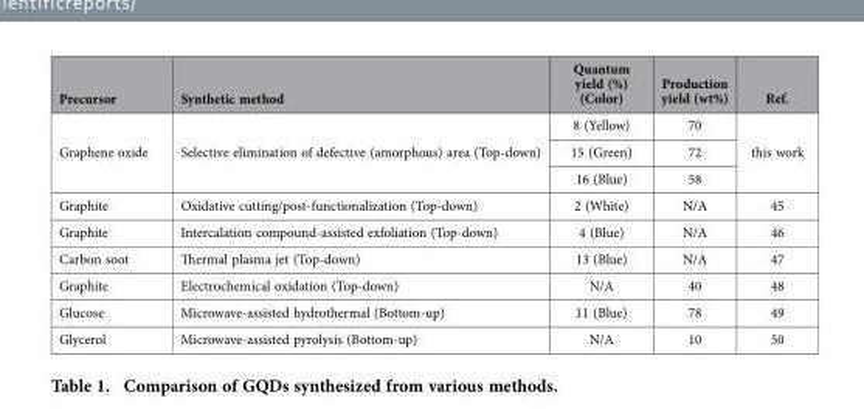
<table><thead><tr><td>Precursor</td><td>Synthetic method</td><td>Quantum yield (%) (Color)</td><td>Production yield (wt%)</td><td>Ref.</td></tr></thead><tbody><tr><td rowspan="3">Graphene oxide</td><td rowspan="3">Selective elimination of defective (amorphous) area (Top-down)</td><td>8 (Yellow)</td><td>70</td><td rowspan="3">this work</td></tr><tr><td>15 (Green)</td><td>72</td></tr><tr><td>16 (Blue)</td><td>58</td></tr><tr><td>Graphite</td><td>Oxidative cutting/post-functionalization (Top-down)</td><td>2 (White)</td><td>N/A</td><td>45</td></tr><tr><td>Graphite</td><td>Intercalation compound-assisted exfoliation (Top-down)</td><td>4 (Blue)</td><td>N/A</td><td>46</td></tr><tr><td>Carbon soot</td><td>Thermal plasma jet (Top-down)</td><td>13 (Blue)</td><td>N/A</td><td>47</td></tr><tr><td>Graphite</td><td>Electrochemical oxidation (Top-down)</td><td>N/A</td><td>40</td><td>48</td></tr><tr><td>Glucose</td><td>Microwave-assisted hydrothermal (Bottom-up)</td><td>11 (Blue)</td><td>78</td><td>49</td></tr><tr><td>Glycerol</td><td>Microwave-assisted pyrolysis (Bottom-up)</td><td>N/A</td><td>10</td><td>50</td></tr></tbody></table>